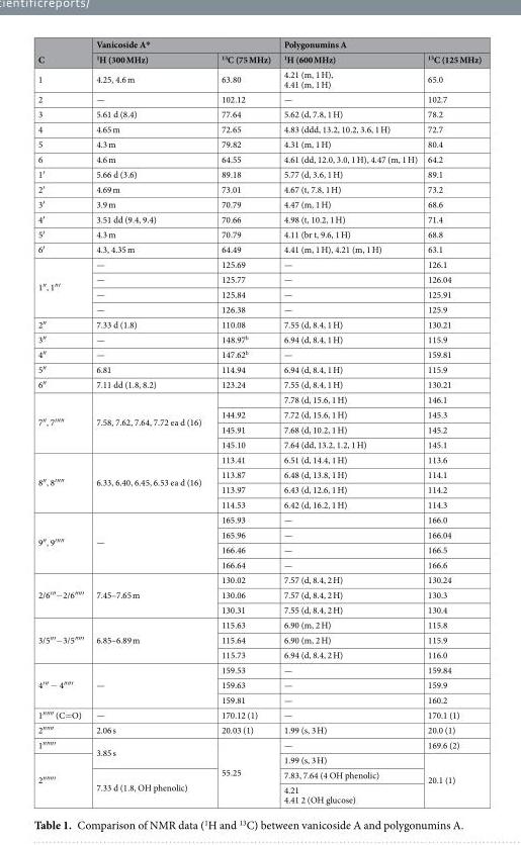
<table><thead><tr><td rowspan="2">C</td><td colspan="2">Vanicoside A*</td><td colspan="2">Polygonumins A</td></tr><tr><td><sup>1</sup>H (300 MHz)</td><td><sup>13</sup>C (75 MHz)</td><td><sup>1</sup>H (600 MHz)</td><td><sup>13</sup>C (125 MHz)</td></tr></thead><tbody><tr><td>1</td><td>4.25, 4.6 m</td><td>63.80</td><td>4.21 (m, 1 H), 4.41 (m, 1 H)</td><td>65.0</td></tr><tr><td>2</td><td>—</td><td>102.12</td><td>—</td><td>102.7</td></tr><tr><td>3</td><td>5.61 d (8.4)</td><td>77.64</td><td>5.62 (d, 7.8, 1 H)</td><td>78.2</td></tr><tr><td>4</td><td>4.65 m</td><td>72.65</td><td>4.83 (ddd, 13.2, 10.2, 3.6, 1 H)</td><td>72.7</td></tr><tr><td>5</td><td>4.3 m</td><td>79.82</td><td>4.31 (m, 1 H)</td><td>80.4</td></tr><tr><td>6</td><td>4.6 m</td><td>64.55</td><td>4.61 (dd, 12.0, 3.0, 1 H), 4.47 (m, 1 H)</td><td>64.2</td></tr><tr><td>1′</td><td>5.66 d (3.6)</td><td>89.18</td><td>5.77 (d, 3.6, 1 H)</td><td>89.1</td></tr><tr><td>2′</td><td>4.69 m</td><td>73.01</td><td>4.67 (t, 7.8, 1 H)</td><td>73.2</td></tr><tr><td>3′</td><td>3.9 m</td><td>70.79</td><td>4.47 (m, 1 H)</td><td>68.6</td></tr><tr><td>4′</td><td>3.51 dd (9.4, 9.4)</td><td>70.66</td><td>4.98 (t, 10.2, 1 H)</td><td>71.4</td></tr><tr><td>5′</td><td>4.3 m</td><td>70.79</td><td>4.11 (br t, 9.6, 1 H)</td><td>68.8</td></tr><tr><td>6′</td><td>4.3, 4.35 m</td><td>64.49</td><td>4.41 (m, 1 H), 4.21 (m, 1 H)</td><td>63.1</td></tr><tr><td rowspan="4">1″, 1″′</td><td>—</td><td>125.69</td><td>—</td><td>126.1</td></tr><tr><td>—</td><td>125.77</td><td>—</td><td>126.04</td></tr><tr><td>—</td><td>125.84</td><td>—</td><td>125.91</td></tr><tr><td>—</td><td>126.38</td><td>—</td><td>125.9</td></tr><tr><td>2″</td><td>7.33 d (1.8)</td><td>110.08</td><td>7.55 (d, 8.4, 1 H)</td><td>130.21</td></tr><tr><td>3″</td><td>—</td><td>148.97<sup>b</sup></td><td>6.94 (d, 8.4, 1 H)</td><td>115.9</td></tr><tr><td>4″</td><td>—</td><td>147.62<sup>b</sup></td><td>—</td><td>159.81</td></tr><tr><td>5″</td><td>6.81</td><td>114.94</td><td>6.94 (d, 8.4, 1 H)</td><td>115.9</td></tr><tr><td>6″</td><td>7.11 dd (1.8, 8.2)</td><td>123.24</td><td>7.55 (d, 8.4, 1 H)</td><td>130.21</td></tr><tr><td rowspan="4">7″, 7′″″</td><td rowspan="4">7.58, 7.62, 7.64, 7.72 ea d (16)</td><td></td><td>7.78 (d, 15.6, 1 H)</td><td>146.1</td></tr><tr><td>144.92</td><td>7.72 (d, 15.6, 1 H)</td><td>145.3</td></tr><tr><td>145.91</td><td>7.68 (d, 10.2, 1 H)</td><td>145.2</td></tr><tr><td>145.10</td><td>7.64 (dd, 13.2, 1.2, 1 H)</td><td>145.1</td></tr><tr><td rowspan="4">8″, 8′″″</td><td rowspan="4">6.33, 6.40, 6.45, 6.53 ea d (16)</td><td>113.41</td><td>6.51 (d, 14.4, 1 H)</td><td>113.6</td></tr><tr><td>113.87</td><td>6.48 (d, 13.8, 1 H)</td><td>114.1</td></tr><tr><td>113.97</td><td>6.43 (d, 12.6, 1 H)</td><td>114.2</td></tr><tr><td>114.53</td><td>6.42 (d, 16.2, 1 H)</td><td>114.3</td></tr><tr><td rowspan="4">9″, 9′″″</td><td rowspan="4">—</td><td>165.93</td><td>—</td><td>166.0</td></tr><tr><td>165.96</td><td>—</td><td>166.04</td></tr><tr><td>166.46</td><td>—</td><td>166.5</td></tr><tr><td>166.64</td><td>—</td><td>166.6</td></tr><tr><td rowspan="3">2/6′″−2/6″″′</td><td rowspan="3">7.45–7.65 m</td><td>130.02</td><td>7.57 (d, 8.4, 2 H)</td><td>130.24</td></tr><tr><td>130.06</td><td>7.57 (d, 8.4, 2 H)</td><td>130.3</td></tr><tr><td>130.31</td><td>7.55 (d, 8.4, 2 H)</td><td>130.4</td></tr><tr><td rowspan="3">3/5″′−3/5″″′</td><td rowspan="3">6.85–6.89 m</td><td>115.63</td><td>6.90 (m, 2 H)</td><td>115.8</td></tr><tr><td>115.64</td><td>6.90 (m, 2 H)</td><td>115.9</td></tr><tr><td>115.73</td><td>6.94 (d, 8.4, 2 H)</td><td>116.0</td></tr><tr><td rowspan="3">4′″ − 4″″′</td><td rowspan="3">—</td><td>159.53</td><td>—</td><td>159.84</td></tr><tr><td>159.63</td><td>—</td><td>159.9</td></tr><tr><td>159.81</td><td>—</td><td>160.2</td></tr><tr><td>1″″″ (C=O)</td><td>—</td><td>170.12 (1)</td><td>—</td><td>170.1 (1)</td></tr><tr><td>2″″″</td><td>2.06 s</td><td>20.03 (1)</td><td>1.99 (s, 3 H)</td><td>20.0 (1)</td></tr><tr><td>1″″″′</td><td rowspan="2">3.85 s</td><td rowspan="4">55.25</td><td>—</td><td>169.6 (2)</td></tr><tr><td rowspan="3">2″″″′</td><td>1.99 (s, 3 H)</td><td rowspan="3">20.1 (1)</td></tr><tr><td rowspan="2">7.33 d (1.8, OH phenolic)</td><td>7.83, 7.64 (4 OH phenolic)</td></tr><tr><td>4.21 4.41 2 (OH glucose)</td></tr></tbody></table>